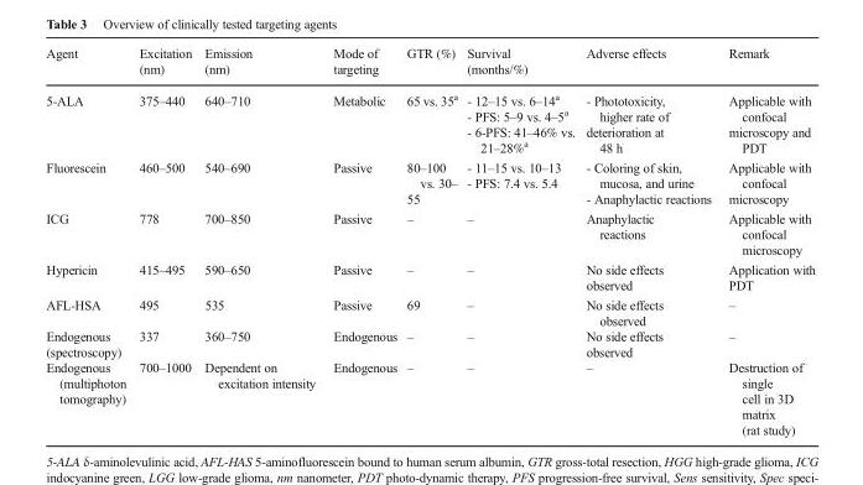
<table><thead><tr><td>Agent</td><td>Excitation (nm)</td><td>Emission (nm)</td><td>Mode of targeting</td><td>GTR (%)</td><td>Survival (months/%)</td><td>Adverse effects</td><td>Remark</td></tr></thead><tbody><tr><td>5-ALA</td><td>375–440</td><td>640–710</td><td>Metabolic</td><td>65 vs. 35<sup>a</sup></td><td>- 12–15 vs. 6–14<sup>a</sup> - PFS: 5–9 vs. 4–5<sup>a</sup> - 6-PFS: 41–46% vs. 21–28%<sup>a</sup></td><td>- Phototoxicity, higher rate of deterioration at 48 h</td><td>Applicable with confocal microscopy and PDT</td></tr><tr><td>Fluorescein</td><td>460–500</td><td>540–690</td><td>Passive</td><td>80–100 vs. 30– 55</td><td>- 11–15 vs. 10–13 - PFS: 7.4 vs. 5.4</td><td>- Coloring of skin, mucosa, and urine - Anaphylactic reactions</td><td>Applicable with confocal microscopy</td></tr><tr><td>ICG</td><td>778</td><td>700–850</td><td>Passive</td><td>–</td><td>–</td><td>Anaphylactic reactions</td><td>Applicable with confocal microscopy</td></tr><tr><td>Hypericin</td><td>415–495</td><td>590–650</td><td>Passive</td><td>–</td><td>–</td><td>No side effects observed</td><td>Application with PDT</td></tr><tr><td>AFL-HSA</td><td>495</td><td>535</td><td>Passive</td><td>69</td><td>–</td><td>No side effects observed</td><td>–</td></tr><tr><td>Endogenous (spectroscopy)</td><td>337</td><td>360–750</td><td>Endogenous</td><td>–</td><td>–</td><td>No side effects observed</td><td>–</td></tr><tr><td>Endogenous (multiphoton tomography)</td><td>700–1000</td><td>Dependent on excitation intensity</td><td>Endogenous</td><td>–</td><td>–</td><td>–</td><td>Destruction of single cell in 3D matrix (rat study)</td></tr></tbody></table>